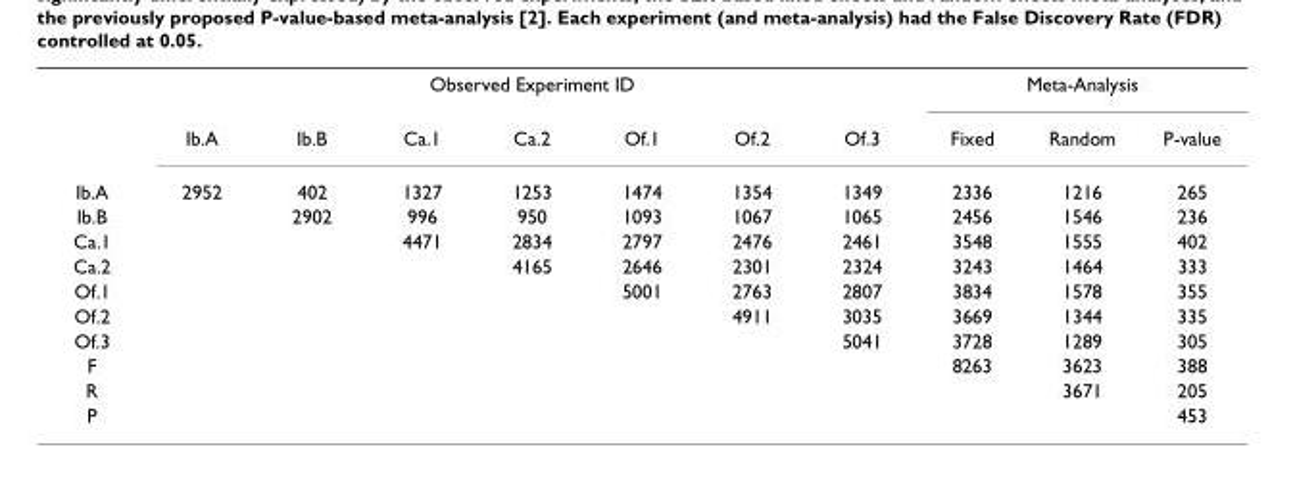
<table><thead><tr><td rowspan="2"></td><td colspan="7">Observed Experiment ID</td><td colspan="3">Meta-Analysis</td></tr><tr><td>Ib.A</td><td>Ib.B</td><td>Ca.1</td><td>Ca.2</td><td>Of.1</td><td>Of.2</td><td>Of.3</td><td>Fixed</td><td>Random</td><td>P-value</td></tr></thead><tbody><tr><td>Ib.A</td><td>2952</td><td>402</td><td>1327</td><td>1253</td><td>1474</td><td>1354</td><td>1349</td><td>2336</td><td>1216</td><td>265</td></tr><tr><td>Ib.B</td><td></td><td>2902</td><td>996</td><td>950</td><td>1093</td><td>1067</td><td>1065</td><td>2456</td><td>1546</td><td>236</td></tr><tr><td>Ca.1</td><td></td><td></td><td>4471</td><td>2834</td><td>2797</td><td>2476</td><td>2461</td><td>3548</td><td>1555</td><td>402</td></tr><tr><td>Ca.2</td><td></td><td></td><td></td><td>4165</td><td>2646</td><td>2301</td><td>2324</td><td>3243</td><td>1464</td><td>333</td></tr><tr><td>Of.1</td><td></td><td></td><td></td><td></td><td>5001</td><td>2763</td><td>2807</td><td>3834</td><td>1578</td><td>355</td></tr><tr><td>Of.2</td><td></td><td></td><td></td><td></td><td></td><td>4911</td><td>3035</td><td>3669</td><td>1344</td><td>335</td></tr><tr><td>Of.3</td><td></td><td></td><td></td><td></td><td></td><td></td><td>5041</td><td>3728</td><td>1289</td><td>305</td></tr><tr><td>F</td><td></td><td></td><td></td><td></td><td></td><td></td><td></td><td>8263</td><td>3623</td><td>388</td></tr><tr><td>R</td><td></td><td></td><td></td><td></td><td></td><td></td><td></td><td></td><td>3671</td><td>205</td></tr><tr><td>P</td><td></td><td></td><td></td><td></td><td></td><td></td><td></td><td></td><td></td><td>453</td></tr></tbody></table>